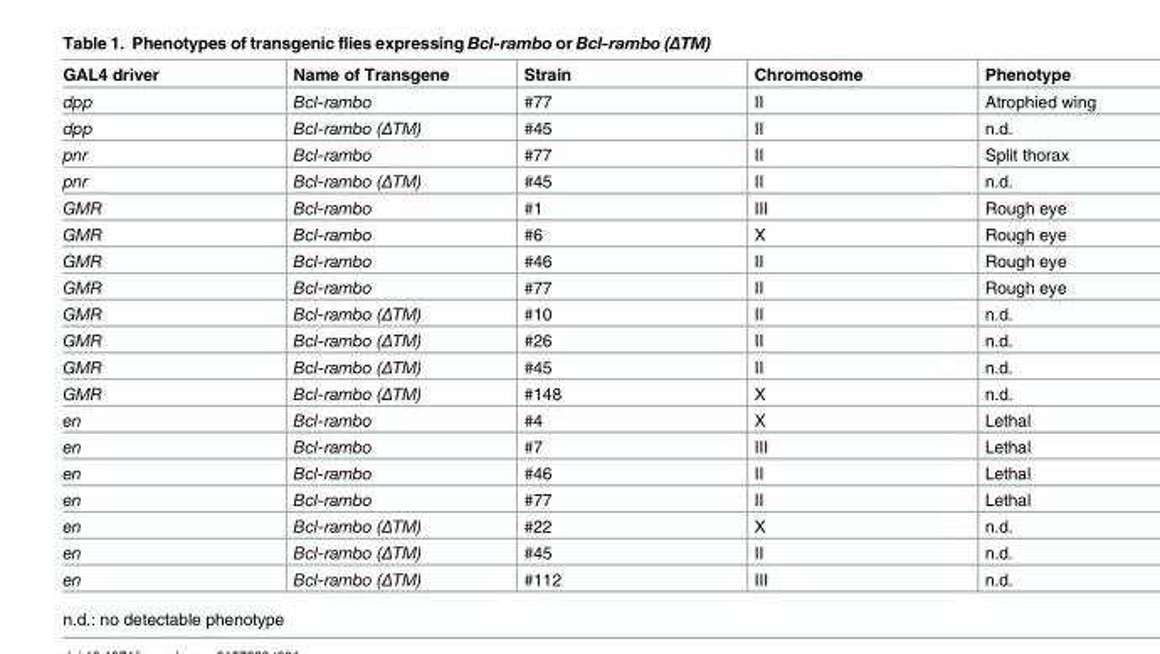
<table><thead><tr><td>GAL4 driver</td><td>Name of Transgene</td><td>Strain</td><td>Chromosome</td><td>Phenotype</td></tr></thead><tbody><tr><td>dpp</td><td>Bcl-rambo</td><td>#77</td><td>II</td><td>Atrophied wing</td></tr><tr><td>dpp</td><td>Bcl-rambo (ΔTM)</td><td>#45</td><td>II</td><td>n.d.</td></tr><tr><td>pnr</td><td>Bcl-rambo</td><td>#77</td><td>II</td><td>Split thorax</td></tr><tr><td>pnr</td><td>Bcl-rambo (ΔTM)</td><td>#45</td><td>II</td><td>n.d.</td></tr><tr><td>GMR</td><td>Bcl-rambo</td><td>#1</td><td>III</td><td>Rough eye</td></tr><tr><td>GMR</td><td>Bcl-rambo</td><td>#6</td><td>X</td><td>Rough eye</td></tr><tr><td>GMR</td><td>Bcl-rambo</td><td>#46</td><td>II</td><td>Rough eye</td></tr><tr><td>GMR</td><td>Bcl-rambo</td><td>#77</td><td>II</td><td>Rough eye</td></tr><tr><td>GMR</td><td>Bcl-rambo (ΔTM)</td><td>#10</td><td>II</td><td>n.d.</td></tr><tr><td>GMR</td><td>Bcl-rambo (ΔTM)</td><td>#26</td><td>II</td><td>n.d.</td></tr><tr><td>GMR</td><td>Bcl-rambo (ΔTM)</td><td>#45</td><td>II</td><td>n.d.</td></tr><tr><td>GMR</td><td>Bcl-rambo (ΔTM)</td><td>#148</td><td>X</td><td>n.d.</td></tr><tr><td>en</td><td>Bcl-rambo</td><td>#4</td><td>X</td><td>Lethal</td></tr><tr><td>en</td><td>Bcl-rambo</td><td>#7</td><td>III</td><td>Lethal</td></tr><tr><td>en</td><td>Bcl-rambo</td><td>#46</td><td>II</td><td>Lethal</td></tr><tr><td>en</td><td>Bcl-rambo</td><td>#77</td><td>II</td><td>Lethal</td></tr><tr><td>en</td><td>Bcl-rambo (ΔTM)</td><td>#22</td><td>X</td><td>n.d.</td></tr><tr><td>en</td><td>Bcl-rambo (ΔTM)</td><td>#45</td><td>II</td><td>n.d.</td></tr><tr><td>en</td><td>Bcl-rambo (ΔTM)</td><td>#112</td><td>III</td><td>n.d.</td></tr></tbody></table>